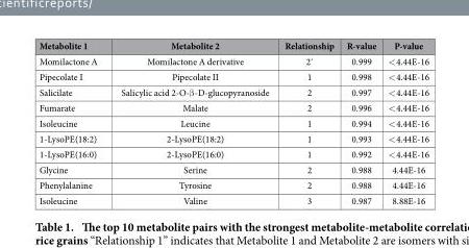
<table><thead><tr><td>Metabolite 1</td><td>Metabolite 2</td><td>Relationship</td><td>R-value</td><td>P-value</td></tr></thead><tbody><tr><td>Momilactone A</td><td>Momilactone A derivative</td><td>2′</td><td>0.999</td><td>&lt; 4.44E-16</td></tr><tr><td>Pipecolate I</td><td>Pipecolate II</td><td>1</td><td>0.998</td><td>&lt; 4.44E-16</td></tr><tr><td>Salicilate</td><td>Salicylic acid 2-O-β -D-glucopyranoside</td><td>2</td><td>0.997</td><td>&lt; 4.44E-16</td></tr><tr><td>Fumarate</td><td>Malate</td><td>2</td><td>0.996</td><td>&lt; 4.44E-16</td></tr><tr><td>Isoleucine</td><td>Leucine</td><td>1</td><td>0.994</td><td>&lt; 4.44E-16</td></tr><tr><td>1-LysoPE(18:2)</td><td>2-LysoPE(18:2)</td><td>1</td><td>0.993</td><td>&lt; 4.44E-16</td></tr><tr><td>1-LysoPE(16:0)</td><td>2-LysoPE(16:0)</td><td>1</td><td>0.992</td><td>&lt; 4.44E-16</td></tr><tr><td>Glycine</td><td>Serine</td><td>2</td><td>0.988</td><td>4.44E-16</td></tr><tr><td>Phenylalanine</td><td>Tyrosine</td><td>2</td><td>0.988</td><td>4.44E-16</td></tr><tr><td>Isoleucine</td><td>Valine</td><td>3</td><td>0.987</td><td>8.88E-16</td></tr></tbody></table>